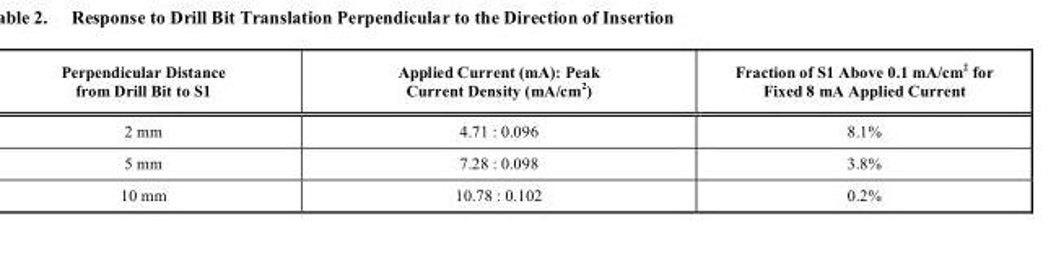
<table><thead><tr><td>Perpendicular Distance from Drill Bit to S1</td><td>Applied Current (mA): Peak Current Density (mA/cm<sup>2</sup>)</td><td>Fraction of S1 Above 0.1 mA/cm<sup>2</sup> for Fixed 8 mA Applied Current</td></tr></thead><tbody><tr><td>2 mm</td><td>4.71 : 0.096</td><td>8.1%</td></tr><tr><td>5 mm</td><td>7.28 : 0.098</td><td>3.8%</td></tr><tr><td>10 mm</td><td>10.78 : 0.102</td><td>0.2%</td></tr></tbody></table>